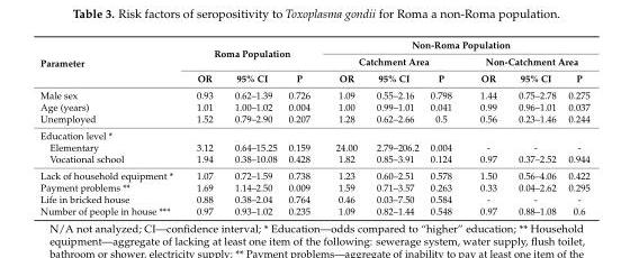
<table><thead><tr><td rowspan="3">Parameter</td><td rowspan="2" colspan="3">Roma Population</td><td colspan="6">Non-Roma Population</td></tr><tr><td colspan="3">Catchment Area</td><td colspan="3">Non-Catchment Area</td></tr><tr><td>OR</td><td>95% CI</td><td>P</td><td>OR</td><td>95% CI</td><td>P</td><td>OR</td><td>95% CI</td><td>P</td></tr></thead><tbody><tr><td>Male sex</td><td>0.93</td><td>0.62–1.39</td><td>0.726</td><td>1.09</td><td>0.55–2.16</td><td>0.798</td><td>1.44</td><td>0.75–2.78</td><td>0.275</td></tr><tr><td>Age (years)</td><td>1.01</td><td>1.00–1.02</td><td>0.004</td><td>1.00</td><td>0.99–1.01</td><td>0.041</td><td>0.99</td><td>0.96–1.01</td><td>0.037</td></tr><tr><td>Unemployed</td><td>1.52</td><td>0.79–2.90</td><td>0.207</td><td>1.28</td><td>0.62–2.66</td><td>0.5</td><td>0.56</td><td>0.23–1.46</td><td>0.244</td></tr><tr><td colspan="10">Education level *</td></tr><tr><td>Elementary</td><td>3.12</td><td>0.64–15.25</td><td>0.159</td><td>24.00</td><td>2.79–206.2</td><td>0.004</td><td><sub>-</sub></td><td><sub>-</sub></td><td><sub>-</sub></td></tr><tr><td>Vocational school</td><td>1.94</td><td>0.38–10.08</td><td>0.428</td><td>1.82</td><td>0.85–3.91</td><td>0.124</td><td>0.97</td><td>0.37–2.52</td><td>0.944</td></tr><tr><td>Lack of household equipment *</td><td>1.07</td><td>0.72–1.59</td><td>0.738</td><td>1.23</td><td>0.60–2.51</td><td>0.578</td><td>1.50</td><td>0.56–4.06</td><td>0.422</td></tr><tr><td>Payment problems **</td><td>1.69</td><td>1.14–2.50</td><td>0.009</td><td>1.59</td><td>0.71–3.57</td><td>0.263</td><td>0.33</td><td>0.04–2.62</td><td>0.295</td></tr><tr><td>Life in bricked house</td><td>0.88</td><td>0.38–2.04</td><td>0.764</td><td>0.46</td><td>0.03–7.50</td><td>0.584</td><td><sub>-</sub></td><td><sub>-</sub></td><td><sub>-</sub></td></tr><tr><td>Number of people in house ***</td><td>0.97</td><td>0.93–1.02</td><td>0.235</td><td>1.09</td><td>0.82–1.44</td><td>0.548</td><td>0.97</td><td>0.88–1.08</td><td>0.6</td></tr></tbody></table>